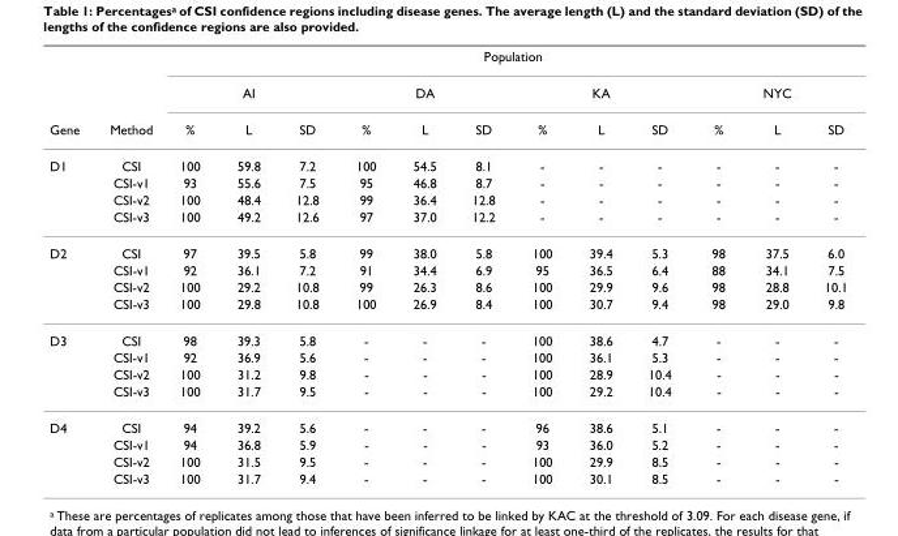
<table><thead><tr><td rowspan="3">Gene</td><td rowspan="3">Method</td><td colspan="12">Population</td></tr><tr><td colspan="3">AI</td><td colspan="3">DA</td><td colspan="3">KA</td><td colspan="3">NYC</td></tr><tr><td>%</td><td>L</td><td>SD</td><td>%</td><td>L</td><td>SD</td><td>%</td><td>L</td><td>SD</td><td>%</td><td>L</td><td>SD</td></tr></thead><tbody><tr><td rowspan="4">D1</td><td>CSI</td><td>100</td><td>59.8</td><td>7.2</td><td>100</td><td>54.5</td><td>8.1</td><td>-</td><td>-</td><td>-</td><td>-</td><td>-</td><td>-</td></tr><tr><td>CSI-v1</td><td>93</td><td>55.6</td><td>7.5</td><td>95</td><td>46.8</td><td>8.7</td><td>-</td><td>-</td><td>-</td><td>-</td><td>-</td><td>-</td></tr><tr><td>CSI-v2</td><td>100</td><td>48.4</td><td>12.8</td><td>99</td><td>36.4</td><td>12.8</td><td>-</td><td>-</td><td>-</td><td>-</td><td>-</td><td>-</td></tr><tr><td>CSI-v3</td><td>100</td><td>49.2</td><td>12.6</td><td>97</td><td>37.0</td><td>12.2</td><td>-</td><td>-</td><td>-</td><td>-</td><td>-</td><td>-</td></tr><tr><td rowspan="4">D2</td><td>CSI</td><td>97</td><td>39.5</td><td>5.8</td><td>99</td><td>38.0</td><td>5.8</td><td>100</td><td>39.4</td><td>5.3</td><td>98</td><td>37.5</td><td>6.0</td></tr><tr><td>CSI-v1</td><td>92</td><td>36.1</td><td>7.2</td><td>91</td><td>34.4</td><td>6.9</td><td>95</td><td>36.5</td><td>6.4</td><td>88</td><td>34.1</td><td>7.5</td></tr><tr><td>CSI-v2</td><td>100</td><td>29.2</td><td>10.8</td><td>99</td><td>26.3</td><td>8.6</td><td>100</td><td>29.9</td><td>9.6</td><td>98</td><td>28.8</td><td>10.1</td></tr><tr><td>CSI-v3</td><td>100</td><td>29.8</td><td>10.8</td><td>100</td><td>26.9</td><td>8.4</td><td>100</td><td>30.7</td><td>9.4</td><td>98</td><td>29.0</td><td>9.8</td></tr><tr><td rowspan="4">D3</td><td>CSI</td><td>98</td><td>39.3</td><td>5.8</td><td>-</td><td>-</td><td>-</td><td>100</td><td>38.6</td><td>4.7</td><td>-</td><td>-</td><td>-</td></tr><tr><td>CSI-v1</td><td>92</td><td>36.9</td><td>5.6</td><td>-</td><td>-</td><td>-</td><td>100</td><td>36.1</td><td>5.3</td><td>-</td><td>-</td><td>-</td></tr><tr><td>CSI-v2</td><td>100</td><td>31.2</td><td>9.8</td><td>-</td><td>-</td><td>-</td><td>100</td><td>28.9</td><td>10.4</td><td>-</td><td>-</td><td>-</td></tr><tr><td>CSI-v3</td><td>100</td><td>31.7</td><td>9.5</td><td>-</td><td>-</td><td>-</td><td>100</td><td>29.2</td><td>10.4</td><td>-</td><td>-</td><td>-</td></tr><tr><td rowspan="4">D4</td><td>CSI</td><td>94</td><td>39.2</td><td>5.6</td><td>-</td><td>-</td><td>-</td><td>96</td><td>38.6</td><td>5.1</td><td>-</td><td>-</td><td>-</td></tr><tr><td>CSI-v1</td><td>94</td><td>36.8</td><td>5.9</td><td>-</td><td>-</td><td>-</td><td>93</td><td>36.0</td><td>5.2</td><td>-</td><td>-</td><td>-</td></tr><tr><td>CSI-v2</td><td>100</td><td>31.5</td><td>9.5</td><td>-</td><td>-</td><td>-</td><td>100</td><td>29.9</td><td>8.5</td><td>-</td><td>-</td><td>-</td></tr><tr><td>CSI-v3</td><td>100</td><td>31.7</td><td>9.4</td><td>-</td><td>-</td><td>-</td><td>100</td><td>30.1</td><td>8.5</td><td>-</td><td>-</td><td>-</td></tr></tbody></table>